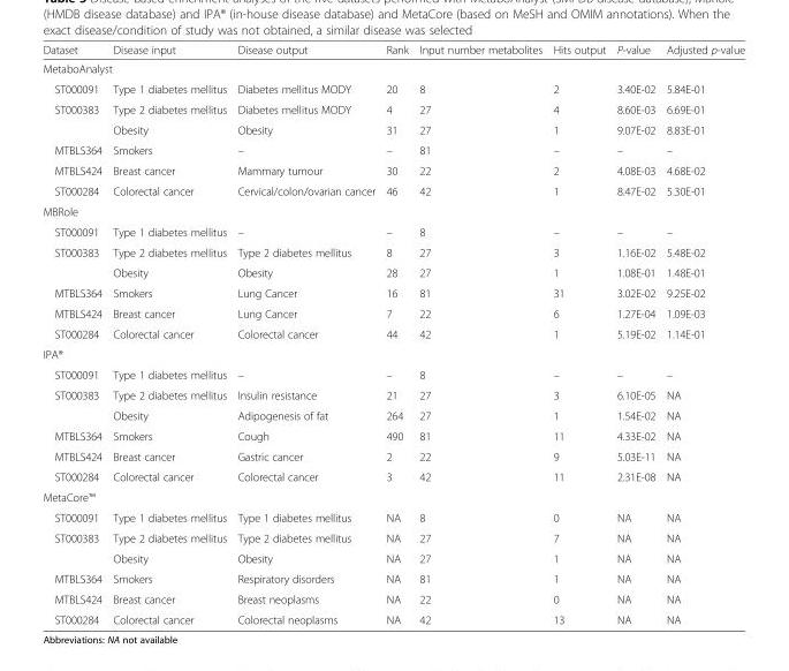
<table><thead><tr><td>Dataset</td><td>Disease input</td><td>Disease output</td><td>Rank</td><td>Input number metabolites</td><td>Hits output</td><td>P-value</td><td>Adjusted p-value</td></tr></thead><tbody><tr><td colspan="8">MetaboAnalyst</td></tr><tr><td>ST000091</td><td>Type 1 diabetes mellitus</td><td>Diabetes mellitus MODY</td><td>20</td><td>8</td><td>2</td><td>3.40E-02</td><td>5.84E-01</td></tr><tr><td rowspan="2">ST000383</td><td>Type 2 diabetes mellitus</td><td>Diabetes mellitus MODY</td><td>4</td><td>27</td><td>4</td><td>8.60E-03</td><td>6.69E-01</td></tr><tr><td>Obesity</td><td>Obesity</td><td>31</td><td>27</td><td>1</td><td>9.07E-02</td><td>8.83E-01</td></tr><tr><td>MTBLS364</td><td>Smokers</td><td>–</td><td>–</td><td>81</td><td>–</td><td>–</td><td>–</td></tr><tr><td>MTBLS424</td><td>Breast cancer</td><td>Mammary tumour</td><td>30</td><td>22</td><td>2</td><td>4.08E-03</td><td>4.68E-02</td></tr><tr><td>ST000284</td><td>Colorectal cancer</td><td>Cervical/colon/ovarian cancer</td><td>46</td><td>42</td><td>1</td><td>8.47E-02</td><td>5.30E-01</td></tr><tr><td colspan="8">MBRole</td></tr><tr><td>ST000091</td><td>Type 1 diabetes mellitus</td><td>–</td><td>–</td><td>8</td><td>–</td><td>–</td><td>–</td></tr><tr><td rowspan="2">ST000383</td><td>Type 2 diabetes mellitus</td><td>Type 2 diabetes mellitus</td><td>8</td><td>27</td><td>3</td><td>1.16E-02</td><td>5.48E-02</td></tr><tr><td>Obesity</td><td>Obesity</td><td>28</td><td>27</td><td>1</td><td>1.08E-01</td><td>1.48E-01</td></tr><tr><td>MTBLS364</td><td>Smokers</td><td>Lung Cancer</td><td>16</td><td>81</td><td>31</td><td>3.02E-02</td><td>9.25E-02</td></tr><tr><td>MTBLS424</td><td>Breast cancer</td><td>Lung Cancer</td><td>7</td><td>22</td><td>6</td><td>1.27E-04</td><td>1.09E-03</td></tr><tr><td>ST000284</td><td>Colorectal cancer</td><td>Colorectal cancer</td><td>44</td><td>42</td><td>1</td><td>5.19E-02</td><td>1.14E-01</td></tr><tr><td colspan="8">IPA®</td></tr><tr><td>ST000091</td><td>Type 1 diabetes mellitus</td><td>–</td><td>–</td><td>8</td><td>–</td><td>–</td><td>–</td></tr><tr><td rowspan="2">ST000383</td><td>Type 2 diabetes mellitus</td><td>Insulin resistance</td><td>21</td><td>27</td><td>3</td><td>6.10E-05</td><td>NA</td></tr><tr><td>Obesity</td><td>Adipogenesis of fat</td><td>264</td><td>27</td><td>1</td><td>1.54E-02</td><td>NA</td></tr><tr><td>MTBLS364</td><td>Smokers</td><td>Cough</td><td>490</td><td>81</td><td>11</td><td>4.33E-02</td><td>NA</td></tr><tr><td>MTBLS424</td><td>Breast cancer</td><td>Gastric cancer</td><td>2</td><td>22</td><td>9</td><td>5.03E-11</td><td>NA</td></tr><tr><td>ST000284</td><td>Colorectal cancer</td><td>Colorectal cancer</td><td>3</td><td>42</td><td>11</td><td>2.31E-08</td><td>NA</td></tr><tr><td colspan="8">MetaCore™</td></tr><tr><td>ST000091</td><td>Type 1 diabetes mellitus</td><td>Type 1 diabetes mellitus</td><td>NA</td><td>8</td><td>0</td><td>NA</td><td>NA</td></tr><tr><td rowspan="2">ST000383</td><td>Type 2 diabetes mellitus</td><td>Type 2 diabetes mellitus</td><td>NA</td><td>27</td><td>7</td><td>NA</td><td>NA</td></tr><tr><td>Obesity</td><td>Obesity</td><td>NA</td><td>27</td><td>1</td><td>NA</td><td>NA</td></tr><tr><td>MTBLS364</td><td>Smokers</td><td>Respiratory disorders</td><td>NA</td><td>81</td><td>1</td><td>NA</td><td>NA</td></tr><tr><td>MTBLS424</td><td>Breast cancer</td><td>Breast neoplasms</td><td>NA</td><td>22</td><td>0</td><td>NA</td><td>NA</td></tr><tr><td>ST000284</td><td>Colorectal cancer</td><td>Colorectal neoplasms</td><td>NA</td><td>42</td><td>13</td><td>NA</td><td>NA</td></tr></tbody></table>